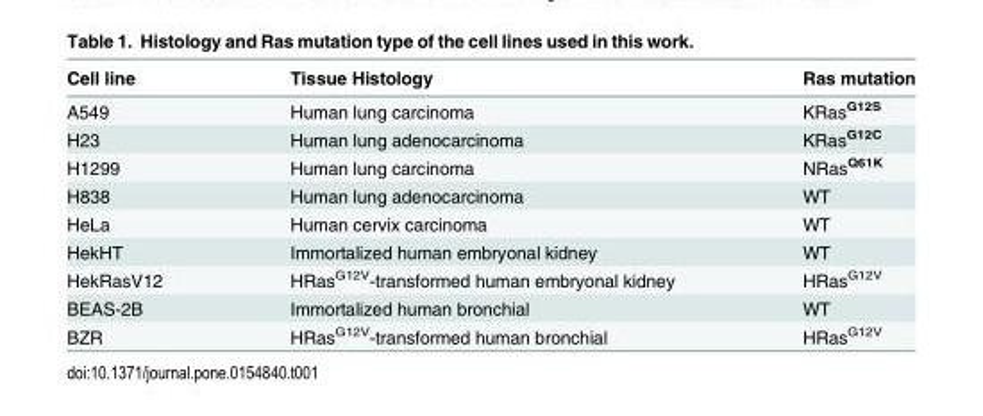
<table><thead><tr><td>Cell line</td><td>Tissue Histology</td><td>Ras mutation</td></tr></thead><tbody><tr><td>A549</td><td>Human lung carcinoma</td><td>KRas<sup>G12S</sup></td></tr><tr><td>H23</td><td>Human lung adenocarcinoma</td><td>KRas<sup>G12C</sup></td></tr><tr><td>H1299</td><td>Human lung carcinoma</td><td>NRas<sup>Q61K</sup></td></tr><tr><td>H838</td><td>Human lung adenocarcinoma</td><td>WT</td></tr><tr><td>HeLa</td><td>Human cervix carcinoma</td><td>WT</td></tr><tr><td>HekHT</td><td>Immortalized human embryonal kidney</td><td>WT</td></tr><tr><td>HekRasV12</td><td>HRas<sup>G12V</sup>-transformed human embryonal kidney</td><td>HRas<sup>G12V</sup></td></tr><tr><td>BEAS-2B</td><td>Immortalized human bronchial</td><td>WT</td></tr><tr><td>BZR</td><td>HRas<sup>G12V</sup>-transformed human bronchial</td><td>HRas<sup>G12V</sup></td></tr></tbody></table>